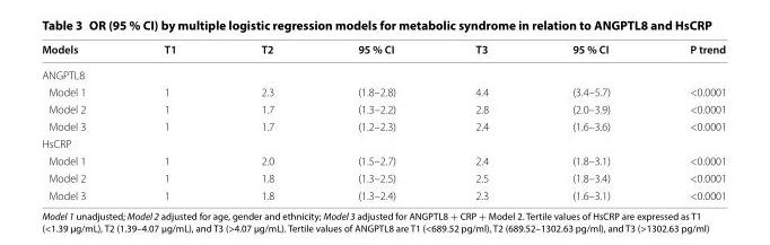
<table><thead><tr><td>Models</td><td>T1</td><td>T2</td><td>95 % CI</td><td>T3</td><td>95 % CI</td><td>P trend</td></tr></thead><tbody><tr><td colspan="7">ANGPTL8</td></tr><tr><td>Model 1</td><td>1</td><td>2.3</td><td>(1.8–2.8)</td><td>4.4</td><td>(3.4–5.7)</td><td>&lt;0.0001</td></tr><tr><td>Model 2</td><td>1</td><td>1.7</td><td>(1.3–2.2)</td><td>2.8</td><td>(2.0–3.9)</td><td>&lt;0.0001</td></tr><tr><td>Model 3</td><td>1</td><td>1.7</td><td>(1.2–2.3)</td><td>2.4</td><td>(1.6–3.6)</td><td>&lt;0.0001</td></tr><tr><td colspan="7">HsCRP</td></tr><tr><td>Model 1</td><td>1</td><td>2.0</td><td>(1.5–2.7)</td><td>2.4</td><td>(1.8–3.1)</td><td>&lt;0.0001</td></tr><tr><td>Model 2</td><td>1</td><td>1.8</td><td>(1.3–2.5)</td><td>2.5</td><td>(1.8–3.4)</td><td>&lt;0.0001</td></tr><tr><td>Model 3</td><td>1</td><td>1.8</td><td>(1.3–2.4)</td><td>2.3</td><td>(1.6–3.1)</td><td>&lt;0.0001</td></tr></tbody></table>